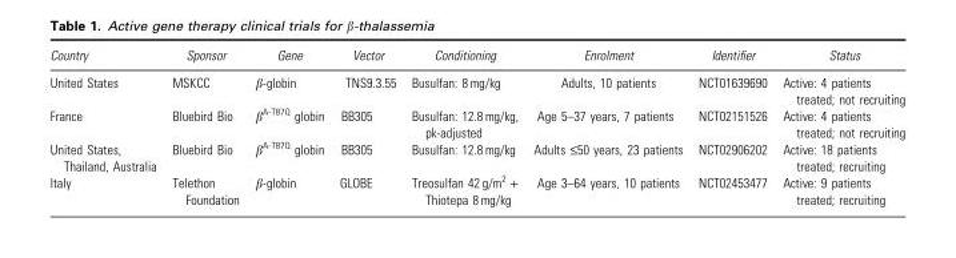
<table><thead><tr><td>Country</td><td>Sponsor</td><td>Gene</td><td>Vector</td><td>Conditioning</td><td>Enrolment</td><td>Identifier</td><td>Status</td></tr></thead><tbody><tr><td>United States</td><td>MSKCC</td><td>β-globin</td><td>TNS9.3.55</td><td>Busulfan: 8 mg/kg</td><td>Adults, 10 patients</td><td>NCT01639690</td><td>Active: 4 patients treated; not recruiting</td></tr><tr><td>France</td><td>Bluebird Bio</td><td>β<sup>A-T87Q</sup> globin</td><td>BB305</td><td>Busulfan: 12.8 mg/kg, pk-adjusted</td><td>Age 5–37 years, 7 patients</td><td>NCT02151526</td><td>Active: 4 patients treated; not recruiting</td></tr><tr><td>United States, Thailand, Australia</td><td>Bluebird Bio</td><td>β<sup>A-T87Q</sup> globin</td><td>BB305</td><td>Busulfan: 12.8 mg/kg</td><td>Adults ≤50 years, 23 patients</td><td>NCT02906202</td><td>Active: 18 patients treated; recruiting</td></tr><tr><td>Italy</td><td>Telethon Foundation</td><td>β-globin</td><td>GLOBE</td><td>Treosulfan 42 g/m<sup>2</sup> + Thiotepa 8 mg/kg</td><td>Age 3–64 years, 10 patients</td><td>NCT02453477</td><td>Active: 9 patients treated; recruiting</td></tr></tbody></table>